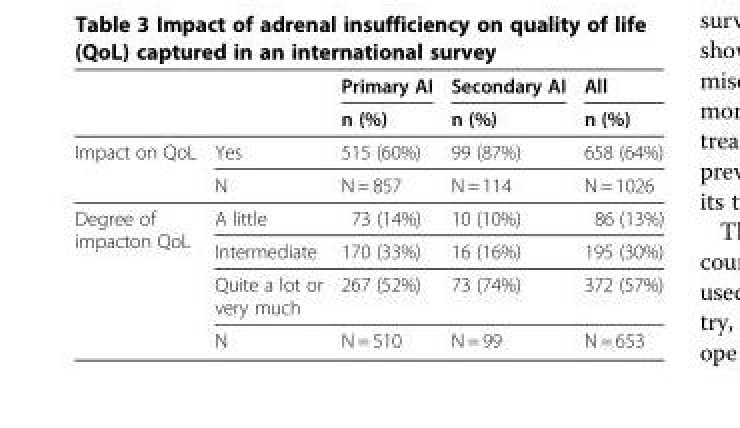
<table><thead><tr><td rowspan="2"></td><td rowspan="2"></td><td rowspan="2">Primary AI n (%)</td><td rowspan="2">Secondary AI n (%)</td><td rowspan="2">All n (%)</td></tr><tr></tr></thead><tbody><tr><td rowspan="2">Impact on QoL</td><td>Yes</td><td>515 (60%)</td><td>99 (87%)</td><td>658 (64%)</td></tr><tr><td>N</td><td>N = 857</td><td>N = 114</td><td>N = 1026</td></tr><tr><td rowspan="4">Degree of impacton QoL</td><td>A little</td><td>73 (14%)</td><td>10 (10%)</td><td>86 (13%)</td></tr><tr><td>Intermediate</td><td>170 (33%)</td><td>16 (16%)</td><td>195 (30%)</td></tr><tr><td>Quite a lot or very much</td><td>267 (52%)</td><td>73 (74%)</td><td>372 (57%)</td></tr><tr><td>N</td><td>N = 510</td><td>N = 99</td><td>N = 653</td></tr></tbody></table>